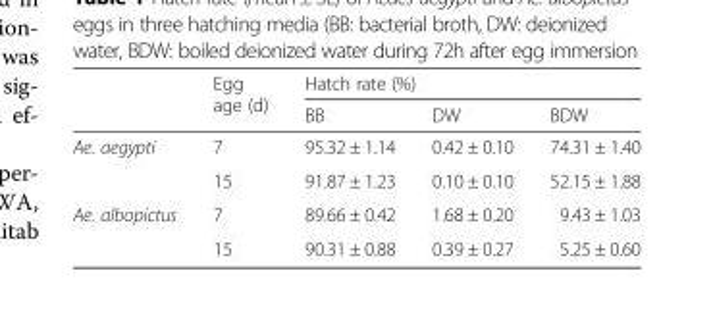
<table><thead><tr><td rowspan="2"></td><td rowspan="2">Egg age (d)</td><td colspan="3">Hatch rate (%)</td></tr><tr><td>BB</td><td>DW</td><td>BDW</td></tr></thead><tbody><tr><td rowspan="2">Ae. aegypti</td><td>7</td><td>95.32 ± 1.14</td><td>0.42 ± 0.10</td><td>74.31 ± 1.40</td></tr><tr><td>15</td><td>91.87 ± 1.23</td><td>0.10 ± 0.10</td><td>52.15 ± 1.88</td></tr><tr><td rowspan="2">Ae. albopictus</td><td>7</td><td>89.66 ± 0.42</td><td>1.68 ± 0.20</td><td>9.43 ± 1.03</td></tr><tr><td>15</td><td>90.31 ± 0.88</td><td>0.39 ± 0.27</td><td>5.25 ± 0.60</td></tr></tbody></table>